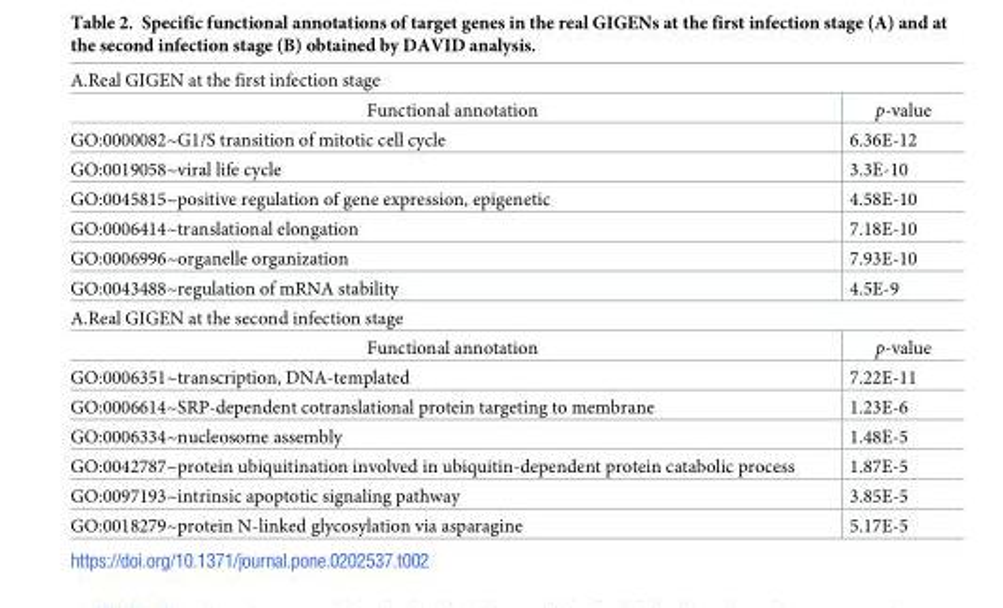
<table><tbody><tr><td colspan="2">A.Real GIGEN at the first infection stage</td></tr><tr><td>Functional annotation</td><td>p-value</td></tr><tr><td>GO:0000082~G1/S transition of mitotic cell cycle</td><td>6.36E-12</td></tr><tr><td>GO:0019058~viral life cycle</td><td>3.3E-10</td></tr><tr><td>GO:0045815~positive regulation of gene expression, epigenetic</td><td>4.58E-10</td></tr><tr><td>GO:0006414~translational elongation</td><td>7.18E-10</td></tr><tr><td>GO:0006996~organelle organization</td><td>7.93E-10</td></tr><tr><td>GO:0043488~regulation of mRNA stability</td><td>4.5E-9</td></tr><tr><td colspan="2">A.Real GIGEN at the second infection stage</td></tr><tr><td>Functional annotation</td><td>p-value</td></tr><tr><td>GO:0006351~transcription, DNA-templated</td><td>7.22E-11</td></tr><tr><td>GO:0006614~SRP-dependent cotranslational protein targeting to membrane</td><td>1.23E-6</td></tr><tr><td>GO:0006334~nucleosome assembly</td><td>1.48E-5</td></tr><tr><td>GO:0042787~protein ubiquitination involved in ubiquitin-dependent protein catabolic process</td><td>1.87E-5</td></tr><tr><td>GO:0097193~intrinsic apoptotic signaling pathway</td><td>3.85E-5</td></tr><tr><td>GO:0018279~protein N-linked glycosylation via asparagine</td><td>5.17E-5</td></tr></tbody></table>